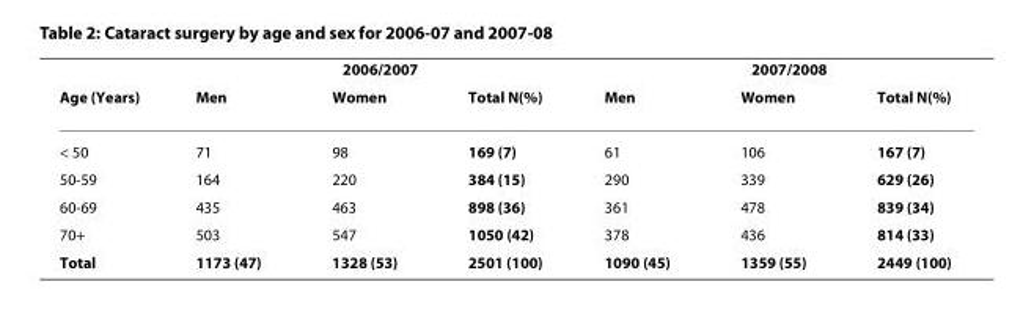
<table><thead><tr><td rowspan="2">Age (Years)</td><td colspan="3">2006/2007</td><td colspan="3">2007/2008</td></tr><tr><td>Men</td><td>Women</td><td>Total N(%)</td><td>Men</td><td>Women</td><td>Total N(%)</td></tr></thead><tbody><tr><td>&lt; 50</td><td>71</td><td>98</td><td>169 (7)</td><td>61</td><td>106</td><td>167 (7)</td></tr><tr><td>50-59</td><td>164</td><td>220</td><td>384 (15)</td><td>290</td><td>339</td><td>629 (26)</td></tr><tr><td>60-69</td><td>435</td><td>463</td><td>898 (36)</td><td>361</td><td>478</td><td>839 (34)</td></tr><tr><td>70+</td><td>503</td><td>547</td><td>1050 (42)</td><td>378</td><td>436</td><td>814 (33)</td></tr><tr><td>Total</td><td>1173 (47)</td><td>1328 (53)</td><td>2501 (100)</td><td>1090 (45)</td><td>1359 (55)</td><td>2449 (100)</td></tr></tbody></table>